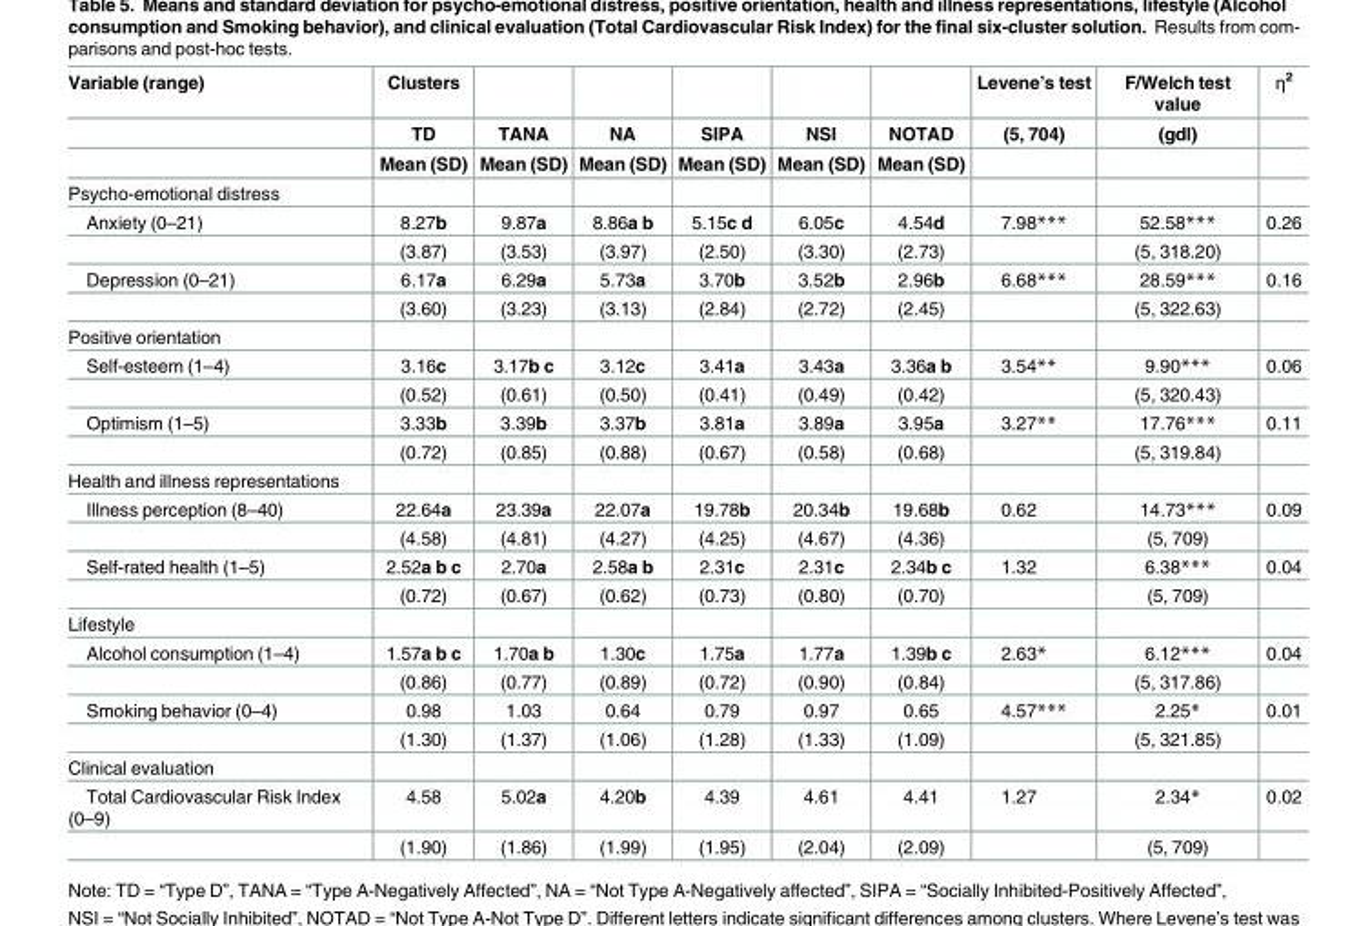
<table><thead><tr><td rowspan="3">Variable (range)</td><td rowspan="3">Clusters TD Mean (SD)</td><td rowspan="3">TANA Mean (SD)</td><td rowspan="3">NA Mean (SD)</td><td rowspan="3">SIPA Mean (SD)</td><td rowspan="3">NSI Mean (SD)</td><td rowspan="3">NOTAD Mean (SD)</td><td rowspan="3">Levene’s test (5, 704)</td><td rowspan="3">F/Welch test value (gdl)</td><td rowspan="3">ƞ<sup>2</sup></td></tr><tr></tr><tr></tr></thead><tbody><tr><td colspan="10">Psycho-emotional distress</td></tr><tr><td rowspan="2">Anxiety (0–21)</td><td>8.27b</td><td>9.87a</td><td>8.86a b</td><td>5.15c d</td><td>6.05c</td><td>4.54d</td><td>7.98***</td><td>52.58***</td><td>0.26</td></tr><tr><td>(3.87)</td><td>(3.53)</td><td>(3.97)</td><td>(2.50)</td><td>(3.30)</td><td>(2.73)</td><td></td><td>(5, 318.20)</td><td></td></tr><tr><td rowspan="2">Depression (0–21)</td><td>6.17a</td><td>6.29a</td><td>5.73a</td><td>3.70b</td><td>3.52b</td><td>2.96b</td><td>6.68***</td><td>28.59***</td><td>0.16</td></tr><tr><td>(3.60)</td><td>(3.23)</td><td>(3.13)</td><td>(2.84)</td><td>(2.72)</td><td>(2.45)</td><td></td><td>(5, 322.63)</td><td></td></tr><tr><td colspan="10">Positive orientation</td></tr><tr><td rowspan="2">Self-esteem (1–4)</td><td>3.16c</td><td>3.17b c</td><td>3.12c</td><td>3.41a</td><td>3.43a</td><td>3.36a b</td><td>3.54**</td><td>9.90***</td><td>0.06</td></tr><tr><td>(0.52)</td><td>(0.61)</td><td>(0.50)</td><td>(0.41)</td><td>(0.49)</td><td>(0.42)</td><td></td><td>(5, 320.43)</td><td></td></tr><tr><td rowspan="2">Optimism (1–5)</td><td>3.33b</td><td>3.39b</td><td>3.37b</td><td>3.81a</td><td>3.89a</td><td>3.95a</td><td>3.27**</td><td>17.76***</td><td>0.11</td></tr><tr><td>(0.72)</td><td>(0.85)</td><td>(0.88)</td><td>(0.67)</td><td>(0.58)</td><td>(0.68)</td><td></td><td>(5, 319.84)</td><td></td></tr><tr><td colspan="10">Health and illness representations</td></tr><tr><td rowspan="2">Illness perception (8–40)</td><td>22.64a</td><td>23.39a</td><td>22.07a</td><td>19.78b</td><td>20.34b</td><td>19.68b</td><td>0.62</td><td>14.73***</td><td>0.09</td></tr><tr><td>(4.58)</td><td>(4.81)</td><td>(4.27)</td><td>(4.25)</td><td>(4.67)</td><td>(4.36)</td><td></td><td>(5, 709)</td><td></td></tr><tr><td rowspan="2">Self-rated health (1–5)</td><td>2.52a b c</td><td>2.70a</td><td>2.58a b</td><td>2.31c</td><td>2.31c</td><td>2.34b c</td><td>1.32</td><td>6.38***</td><td>0.04</td></tr><tr><td>(0.72)</td><td>(0.67)</td><td>(0.62)</td><td>(0.73)</td><td>(0.80)</td><td>(0.70)</td><td></td><td>(5, 709)</td><td></td></tr><tr><td colspan="10">Lifestyle</td></tr><tr><td rowspan="2">Alcohol consumption (1–4)</td><td>1.57a b c</td><td>1.70a b</td><td>1.30c</td><td>1.75a</td><td>1.77a</td><td>1.39b c</td><td>2.63*</td><td>6.12***</td><td>0.04</td></tr><tr><td>(0.86)</td><td>(0.77)</td><td>(0.89)</td><td>(0.72)</td><td>(0.90)</td><td>(0.84)</td><td></td><td>(5, 317.86)</td><td></td></tr><tr><td rowspan="2">Smoking behavior (0–4)</td><td>0.98</td><td>1.03</td><td>0.64</td><td>0.79</td><td>0.97</td><td>0.65</td><td>4.57***</td><td>2.25*</td><td>0.01</td></tr><tr><td>(1.30)</td><td>(1.37)</td><td>(1.06)</td><td>(1.28)</td><td>(1.33)</td><td>(1.09)</td><td></td><td>(5, 321.85)</td><td></td></tr><tr><td colspan="10">Clinical evaluation</td></tr><tr><td rowspan="2">Total Cardiovascular Risk Index (0–9)</td><td>4.58</td><td>5.02a</td><td>4.20b</td><td>4.39</td><td>4.61</td><td>4.41</td><td>1.27</td><td>2.34*</td><td>0.02</td></tr><tr><td>(1.90)</td><td>(1.86)</td><td>(1.99)</td><td>(1.95)</td><td>(2.04)</td><td>(2.09)</td><td></td><td>(5, 709)</td><td></td></tr></tbody></table>